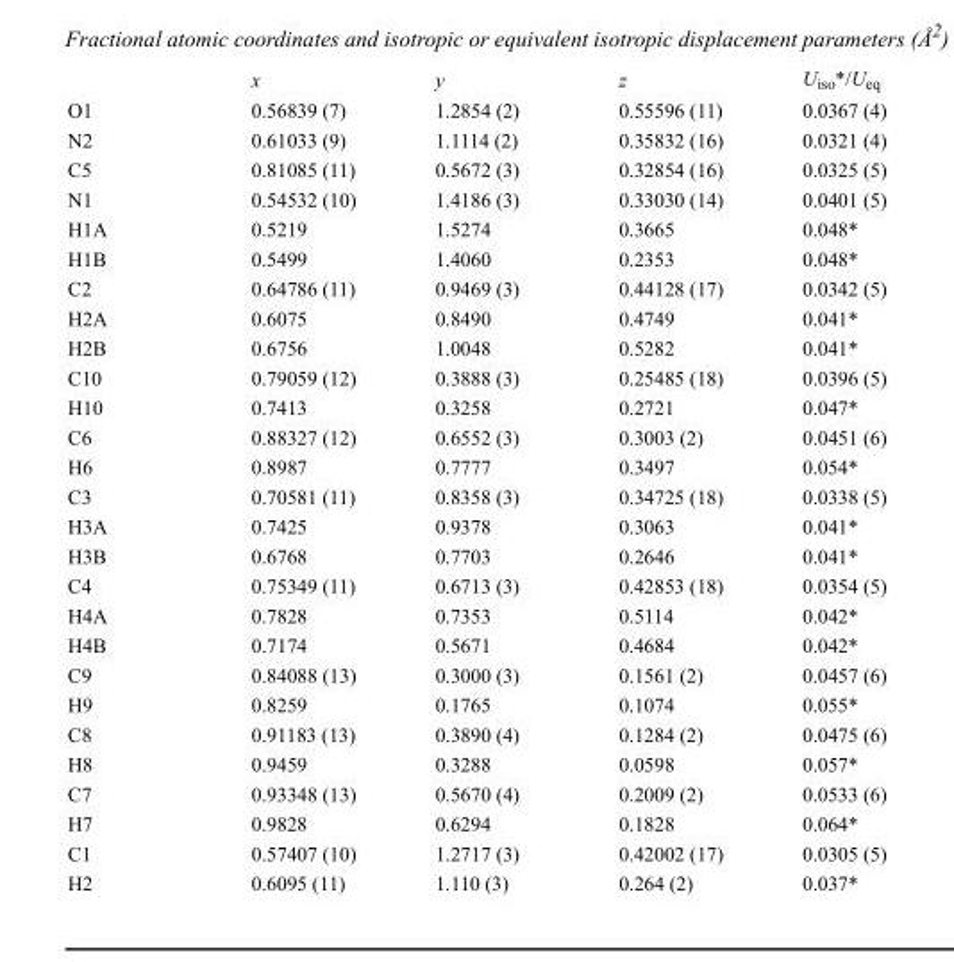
<table><thead><tr><td></td><td>x</td><td>y</td><td>z</td><td>U<sub>iso</sub>*/U<sub>eq</sub></td></tr></thead><tbody><tr><td>O1</td><td>0.56839 (7)</td><td>1.2854 (2)</td><td>0.55596 (11)</td><td>0.0367 (4)</td></tr><tr><td>N2</td><td>0.61033 (9)</td><td>1.1114 (2)</td><td>0.35832 (16)</td><td>0.0321 (4)</td></tr><tr><td>C5</td><td>0.81085 (11)</td><td>0.5672 (3)</td><td>0.32854 (16)</td><td>0.0325 (5)</td></tr><tr><td>N1</td><td>0.54532 (10)</td><td>1.4186 (3)</td><td>0.33030 (14)</td><td>0.0401 (5)</td></tr><tr><td>H1A</td><td>0.5219</td><td>1.5274</td><td>0.3665</td><td>0.048*</td></tr><tr><td>H1B</td><td>0.5499</td><td>1.4060</td><td>0.2353</td><td>0.048*</td></tr><tr><td>C2</td><td>0.64786 (11)</td><td>0.9469 (3)</td><td>0.44128 (17)</td><td>0.0342 (5)</td></tr><tr><td>H2A</td><td>0.6075</td><td>0.8490</td><td>0.4749</td><td>0.041*</td></tr><tr><td>H2B</td><td>0.6756</td><td>1.0048</td><td>0.5282</td><td>0.041*</td></tr><tr><td>C10</td><td>0.79059 (12)</td><td>0.3888 (3)</td><td>0.25485 (18)</td><td>0.0396 (5)</td></tr><tr><td>H10</td><td>0.7413</td><td>0.3258</td><td>0.2721</td><td>0.047*</td></tr><tr><td>C6</td><td>0.88327 (12)</td><td>0.6552 (3)</td><td>0.3003 (2)</td><td>0.0451 (6)</td></tr><tr><td>H6</td><td>0.8987</td><td>0.7777</td><td>0.3497</td><td>0.054*</td></tr><tr><td>C3</td><td>0.70581 (11)</td><td>0.8358 (3)</td><td>0.34725 (18)</td><td>0.0338 (5)</td></tr><tr><td>H3A</td><td>0.7425</td><td>0.9378</td><td>0.3063</td><td>0.041*</td></tr><tr><td>H3B</td><td>0.6768</td><td>0.7703</td><td>0.2646</td><td>0.041*</td></tr><tr><td>C4</td><td>0.75349 (11)</td><td>0.6713 (3)</td><td>0.42853 (18)</td><td>0.0354 (5)</td></tr><tr><td>H4A</td><td>0.7828</td><td>0.7353</td><td>0.5114</td><td>0.042*</td></tr><tr><td>H4B</td><td>0.7174</td><td>0.5671</td><td>0.4684</td><td>0.042*</td></tr><tr><td>C9</td><td>0.84088 (13)</td><td>0.3000 (3)</td><td>0.1561 (2)</td><td>0.0457 (6)</td></tr><tr><td>H9</td><td>0.8259</td><td>0.1765</td><td>0.1074</td><td>0.055*</td></tr><tr><td>C8</td><td>0.91183 (13)</td><td>0.3890 (4)</td><td>0.1284 (2)</td><td>0.0475 (6)</td></tr><tr><td>H8</td><td>0.9459</td><td>0.3288</td><td>0.0598</td><td>0.057*</td></tr><tr><td>C7</td><td>0.93348 (13)</td><td>0.5670 (4)</td><td>0.2009 (2)</td><td>0.0533 (6)</td></tr><tr><td>H7</td><td>0.9828</td><td>0.6294</td><td>0.1828</td><td>0.064*</td></tr><tr><td>C1</td><td>0.57407 (10)</td><td>1.2717 (3)</td><td>0.42002 (17)</td><td>0.0305 (5)</td></tr><tr><td>H2</td><td>0.6095 (11)</td><td>1.110 (3)</td><td>0.264 (2)</td><td>0.037*</td></tr></tbody></table>